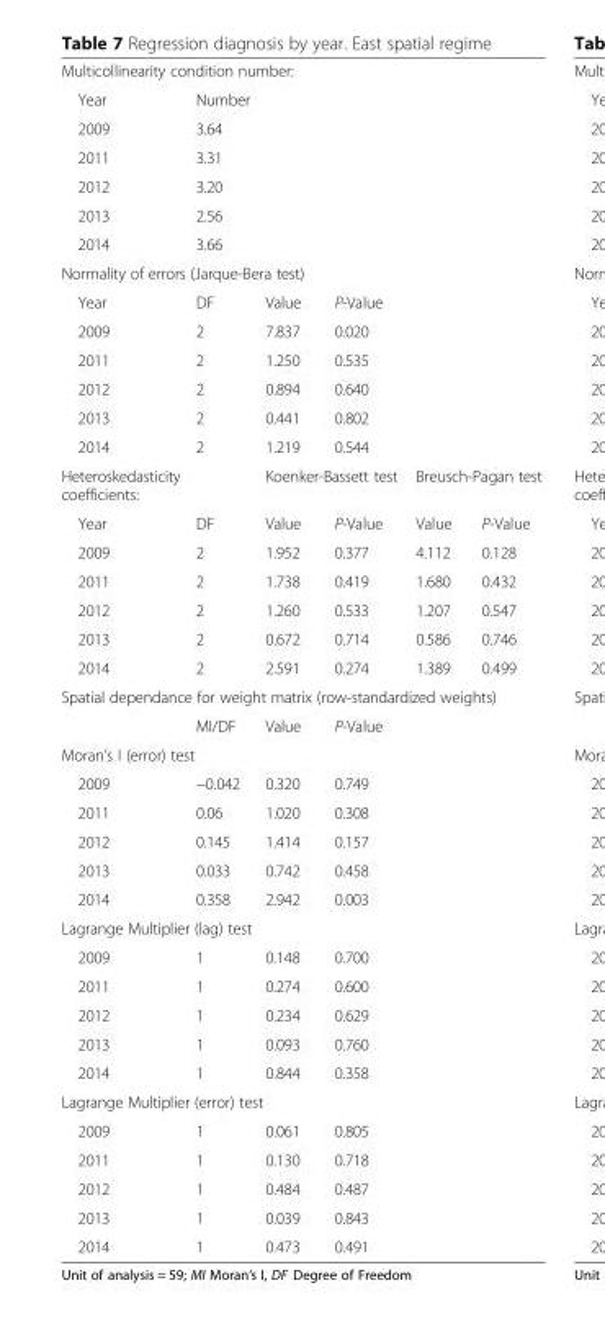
<table><tbody><tr><td colspan="6">Multicollinearity condition number:</td></tr><tr><td>Year</td><td>Number</td><td></td><td></td><td></td><td></td></tr><tr><td>2009</td><td>3.64</td><td></td><td></td><td></td><td></td></tr><tr><td>2011</td><td>3.31</td><td></td><td></td><td></td><td></td></tr><tr><td>2012</td><td>3.20</td><td></td><td></td><td></td><td></td></tr><tr><td>2013</td><td>2.56</td><td></td><td></td><td></td><td></td></tr><tr><td>2014</td><td>3.66</td><td></td><td></td><td></td><td></td></tr><tr><td colspan="6">Normality of errors (Jarque-Bera test)</td></tr><tr><td>Year</td><td>DF</td><td>Value</td><td>P-Value</td><td></td><td></td></tr><tr><td>2009</td><td>2</td><td>7.837</td><td>0.020</td><td></td><td></td></tr><tr><td>2011</td><td>2</td><td>1.250</td><td>0.535</td><td></td><td></td></tr><tr><td>2012</td><td>2</td><td>0.894</td><td>0.640</td><td></td><td></td></tr><tr><td>2013</td><td>2</td><td>0.441</td><td>0.802</td><td></td><td></td></tr><tr><td>2014</td><td>2</td><td>1.219</td><td>0.544</td><td></td><td></td></tr><tr><td>Heteroskedasticity coefficients:</td><td></td><td colspan="2">Koenker-Bassett test</td><td colspan="2">Breusch-Pagan test</td></tr><tr><td>Year</td><td>DF</td><td>Value</td><td>P-Value</td><td>Value</td><td>P-Value</td></tr><tr><td>2009</td><td>2</td><td>1.952</td><td>0.377</td><td>4.112</td><td>0.128</td></tr><tr><td>2011</td><td>2</td><td>1.738</td><td>0.419</td><td>1.680</td><td>0.432</td></tr><tr><td>2012</td><td>2</td><td>1.260</td><td>0.533</td><td>1.207</td><td>0.547</td></tr><tr><td>2013</td><td>2</td><td>0.672</td><td>0.714</td><td>0.586</td><td>0.746</td></tr><tr><td>2014</td><td>2</td><td>2.591</td><td>0.274</td><td>1.389</td><td>0.499</td></tr><tr><td colspan="6">Spatial dependance for weight matrix (row-standardized weights)</td></tr><tr><td></td><td>MI/DF</td><td>Value</td><td>P-Value</td><td></td><td></td></tr><tr><td colspan="6">Moran’s I (error) test</td></tr><tr><td>2009</td><td>−0.042</td><td>0.320</td><td>0.749</td><td></td><td></td></tr><tr><td>2011</td><td>0.06</td><td>1.020</td><td>0.308</td><td></td><td></td></tr><tr><td>2012</td><td>0.145</td><td>1.414</td><td>0.157</td><td></td><td></td></tr><tr><td>2013</td><td>0.033</td><td>0.742</td><td>0.458</td><td></td><td></td></tr><tr><td>2014</td><td>0.358</td><td>2.942</td><td>0.003</td><td></td><td></td></tr><tr><td colspan="6">Lagrange Multiplier (lag) test</td></tr><tr><td>2009</td><td>1</td><td>0.148</td><td>0.700</td><td></td><td></td></tr><tr><td>2011</td><td>1</td><td>0.274</td><td>0.600</td><td></td><td></td></tr><tr><td>2012</td><td>1</td><td>0.234</td><td>0.629</td><td></td><td></td></tr><tr><td>2013</td><td>1</td><td>0.093</td><td>0.760</td><td></td><td></td></tr><tr><td>2014</td><td>1</td><td>0.844</td><td>0.358</td><td></td><td></td></tr><tr><td colspan="6">Lagrange Multiplier (error) test</td></tr><tr><td>2009</td><td>1</td><td>0.061</td><td>0.805</td><td></td><td></td></tr><tr><td>2011</td><td>1</td><td>0.130</td><td>0.718</td><td></td><td></td></tr><tr><td>2012</td><td>1</td><td>0.484</td><td>0.487</td><td></td><td></td></tr><tr><td>2013</td><td>1</td><td>0.039</td><td>0.843</td><td></td><td></td></tr><tr><td>2014</td><td>1</td><td>0.473</td><td>0.491</td><td></td><td></td></tr></tbody></table>